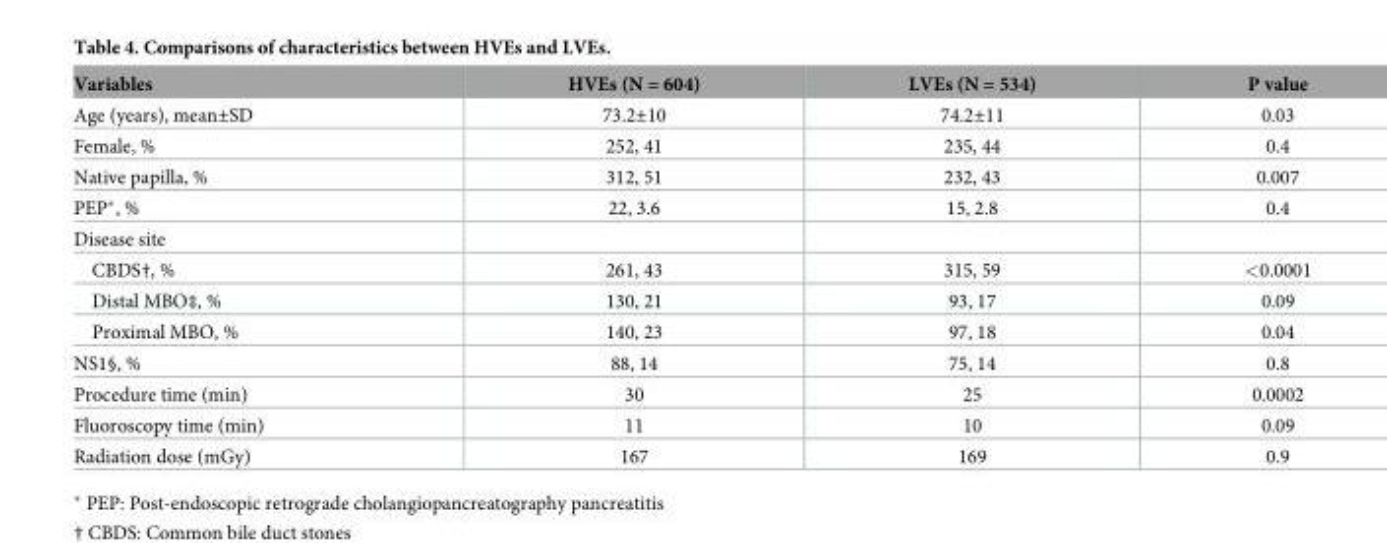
<table><thead><tr><td>Variables</td><td>HVEs (N = 604)</td><td>LVEs (N = 534)</td><td>P value</td></tr></thead><tbody><tr><td>Age (years), mean±SD</td><td>73.2±10</td><td>74.2±11</td><td>0.03</td></tr><tr><td>Female, %</td><td>252, 41</td><td>235, 44</td><td>0.4</td></tr><tr><td>Native papilla, %</td><td>312, 51</td><td>232, 43</td><td>0.007</td></tr><tr><td>PEP*, %</td><td>22, 3.6</td><td>15, 2.8</td><td>0.4</td></tr><tr><td colspan="4">Disease site</td></tr><tr><td>CBDS†, %</td><td>261, 43</td><td>315, 59</td><td>&lt;0.0001</td></tr><tr><td>Distal MBO‡, %</td><td>130, 21</td><td>93, 17</td><td>0.09</td></tr><tr><td>Proximal MBO, %</td><td>140, 23</td><td>97, 18</td><td>0.04</td></tr><tr><td>NS1§, %</td><td>88, 14</td><td>75, 14</td><td>0.8</td></tr><tr><td>Procedure time (min)</td><td>30</td><td>25</td><td>0.0002</td></tr><tr><td>Fluoroscopy time (min)</td><td>11</td><td>10</td><td>0.09</td></tr><tr><td>Radiation dose (mGy)</td><td>167</td><td>169</td><td>0.9</td></tr></tbody></table>